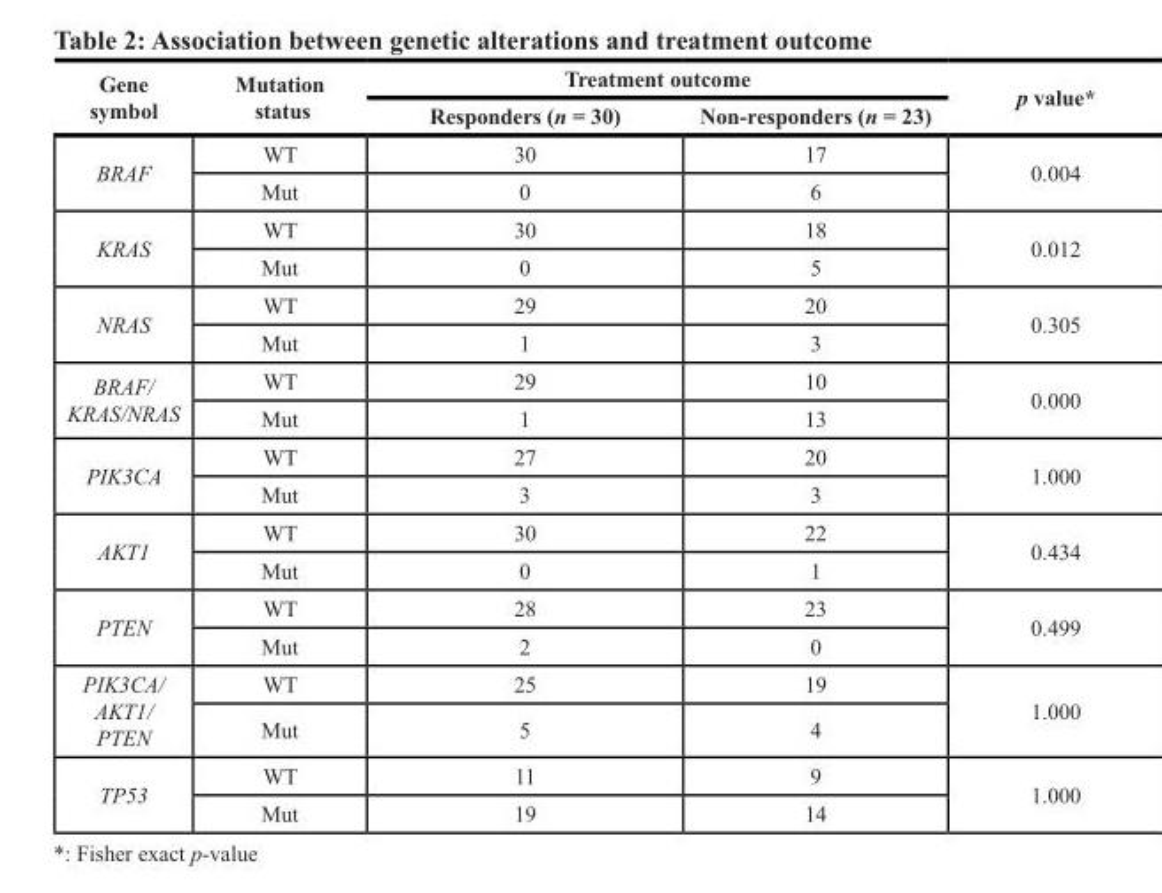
<table><thead><tr><td rowspan="2">Gene symbol</td><td rowspan="2">Mutation status</td><td colspan="2">Treatment outcome</td><td rowspan="2">p value*</td></tr><tr><td>Responders (n = 30)</td><td>Non-responders (n = 23)</td></tr></thead><tbody><tr><td rowspan="2">BRAF</td><td>WT</td><td>30</td><td>17</td><td rowspan="2">0.004</td></tr><tr><td>Mut</td><td>0</td><td>6</td></tr><tr><td rowspan="2">KRAS</td><td>WT</td><td>30</td><td>18</td><td rowspan="2">0.012</td></tr><tr><td>Mut</td><td>0</td><td>5</td></tr><tr><td rowspan="2">NRAS</td><td>WT</td><td>29</td><td>20</td><td rowspan="2">0.305</td></tr><tr><td>Mut</td><td>1</td><td>3</td></tr><tr><td rowspan="2">BRAF/ KRAS/NRAS</td><td>WT</td><td>29</td><td>10</td><td rowspan="2">0.000</td></tr><tr><td>Mut</td><td>1</td><td>13</td></tr><tr><td rowspan="2">PIK3CA</td><td>WT</td><td>27</td><td>20</td><td rowspan="2">1.000</td></tr><tr><td>Mut</td><td>3</td><td>3</td></tr><tr><td rowspan="2">AKT1</td><td>WT</td><td>30</td><td>22</td><td rowspan="2">0.434</td></tr><tr><td>Mut</td><td>0</td><td>1</td></tr><tr><td rowspan="2">PTEN</td><td>WT</td><td>28</td><td>23</td><td rowspan="2">0.499</td></tr><tr><td>Mut</td><td>2</td><td>0</td></tr><tr><td rowspan="2">PIK3CA/ AKT1/ PTEN</td><td>WT</td><td>25</td><td>19</td><td rowspan="2">1.000</td></tr><tr><td>Mut</td><td>5</td><td>4</td></tr><tr><td rowspan="2">TP53</td><td>WT</td><td>11</td><td>9</td><td rowspan="2">1.000</td></tr><tr><td>Mut</td><td>19</td><td>14</td></tr></tbody></table>